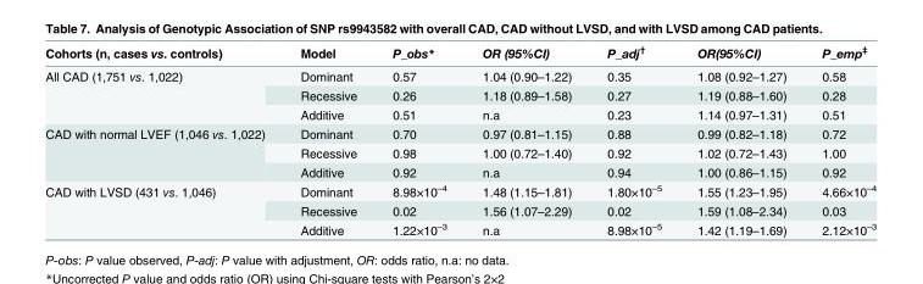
<table><thead><tr><td>Cohorts (n, cases vs. controls)</td><td>Model</td><td>P_obs*</td><td>OR (95%CI)</td><td>P_adj<sup>†</sup></td><td>OR(95%CI)</td><td>P_emp<sup>‡</sup></td></tr></thead><tbody><tr><td rowspan="3">All CAD (1,751 vs. 1,022)</td><td>Dominant</td><td>0.57</td><td>1.04 (0.90–1.22)</td><td>0.35</td><td>1.08 (0.92–1.27)</td><td>0.58</td></tr><tr><td>Recessive</td><td>0.26</td><td>1.18 (0.89–1.58)</td><td>0.27</td><td>1.19 (0.88–1.60)</td><td>0.28</td></tr><tr><td>Additive</td><td>0.51</td><td>n.a</td><td>0.23</td><td>1.14 (0.97–1.31)</td><td>0.51</td></tr><tr><td rowspan="3">CAD with normal LVEF (1,046 vs. 1,022)</td><td>Dominant</td><td>0.70</td><td>0.97 (0.81–1.15)</td><td>0.88</td><td>0.99 (0.82–1.18)</td><td>0.72</td></tr><tr><td>Recessive</td><td>0.98</td><td>1.00 (0.72–1.40)</td><td>0.92</td><td>1.02 (0.72–1.43)</td><td>1.00</td></tr><tr><td>Additive</td><td>0.92</td><td>n.a</td><td>0.94</td><td>1.00 (0.86–1.15)</td><td>0.92</td></tr><tr><td rowspan="3">CAD with LVSD (431 vs. 1,046)</td><td>Dominant</td><td>8.98×10<sup>–4</sup></td><td>1.48 (1.15–1.81)</td><td>1.80×10<sup>–5</sup></td><td>1.55 (1.23–1.95)</td><td>4.66×10<sup>–4</sup></td></tr><tr><td>Recessive</td><td>0.02</td><td>1.56 (1.07–2.29)</td><td>0.02</td><td>1.59 (1.08–2.34)</td><td>0.03</td></tr><tr><td>Additive</td><td>1.22×10<sup>–3</sup></td><td>n.a</td><td>8.98×10<sup>–5</sup></td><td>1.42 (1.19–1.69)</td><td>2.12×10<sup>–3</sup></td></tr></tbody></table>